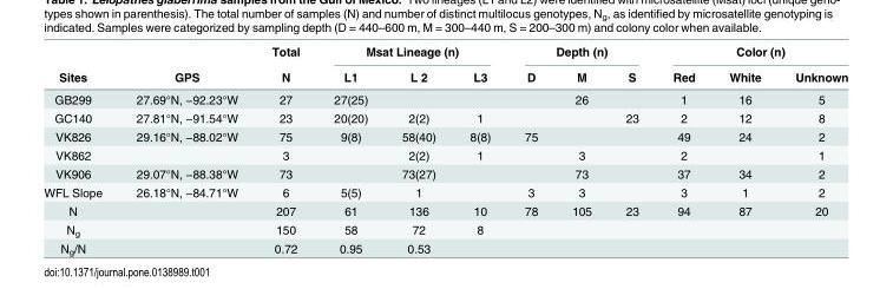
<table><thead><tr><td rowspan="2">Sites</td><td rowspan="2">GPS</td><td rowspan="2">Total N</td><td colspan="3">Msat Lineage (n)</td><td colspan="3">Depth (n)</td><td colspan="3">Color (n)</td></tr><tr><td>L1</td><td>L 2</td><td>L3</td><td>D</td><td>M</td><td>S</td><td>Red</td><td>White</td><td>Unknown</td></tr></thead><tbody><tr><td>GB299</td><td>27.69°N, −92.23°W</td><td>27</td><td>27(25)</td><td></td><td></td><td></td><td>26</td><td></td><td>1</td><td>16</td><td>5</td></tr><tr><td>GC140</td><td>27.81°N, −91.54°W</td><td>23</td><td>20(20)</td><td>2(2)</td><td>1</td><td></td><td></td><td>23</td><td>2</td><td>12</td><td>8</td></tr><tr><td>VK826</td><td>29.16°N, −88.02°W</td><td>75</td><td>9(8)</td><td>58(40)</td><td>8(8)</td><td>75</td><td></td><td></td><td>49</td><td>24</td><td>2</td></tr><tr><td>VK862</td><td></td><td>3</td><td></td><td>2(2)</td><td>1</td><td></td><td>3</td><td></td><td>2</td><td></td><td>1</td></tr><tr><td>VK906</td><td>29.07°N, −88.38°W</td><td>73</td><td></td><td>73(27)</td><td></td><td></td><td>73</td><td></td><td>37</td><td>34</td><td>2</td></tr><tr><td>WFL Slope</td><td>26.18°N, −84.71°W</td><td>6</td><td>5(5)</td><td>1</td><td></td><td>3</td><td>3</td><td></td><td>3</td><td>1</td><td>2</td></tr><tr><td>N</td><td></td><td>207</td><td>61</td><td>136</td><td>10</td><td>78</td><td>105</td><td>23</td><td>94</td><td>87</td><td>20</td></tr><tr><td>N<sub>g</sub></td><td></td><td>150</td><td>58</td><td>72</td><td>8</td><td></td><td></td><td></td><td></td><td></td><td></td></tr><tr><td>N<sub>g</sub>/N</td><td></td><td>0.72</td><td>0.95</td><td>0.53</td><td></td><td></td><td></td><td></td><td></td><td></td><td></td></tr></tbody></table>